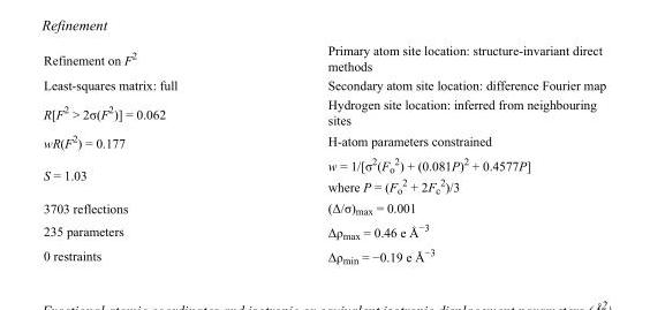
<table><tbody><tr><td>Refinement on F<sup>2</sup></td><td>Primary atom site location: structure-invariant direct methods</td></tr><tr><td>Least-squares matrix: full</td><td>Secondary atom site location: difference Fourier map</td></tr><tr><td>R[F<sup>2</sup> &gt; 2σ(F<sup>2</sup>)] = 0.062</td><td>Hydrogen site location: inferred from neighbouring sites</td></tr><tr><td>wR(F<sup>2</sup>) = 0.177</td><td>H-atom parameters constrained</td></tr><tr><td>S = 1.03</td><td>w = 1/[σ<sup>2</sup>(F<sub>o</sub> <sup>2</sup>) + (0.081P)<sup>2</sup> + 0.4577P] where P = (F<sub>o</sub> <sup>2</sup> + 2F<sub>c</sub> <sup>2</sup>)/3</td></tr><tr><td>3703 reflections</td><td>(Δ/σ)<sub>max</sub> = 0.001</td></tr><tr><td>235 parameters</td><td>Δρ<sub>max</sub> = 0.46 e Å<sup>−3</sup></td></tr><tr><td>0 restraints</td><td>Δρ<sub>min</sub> = −0.19 e Å<sup>−3</sup></td></tr></tbody></table>